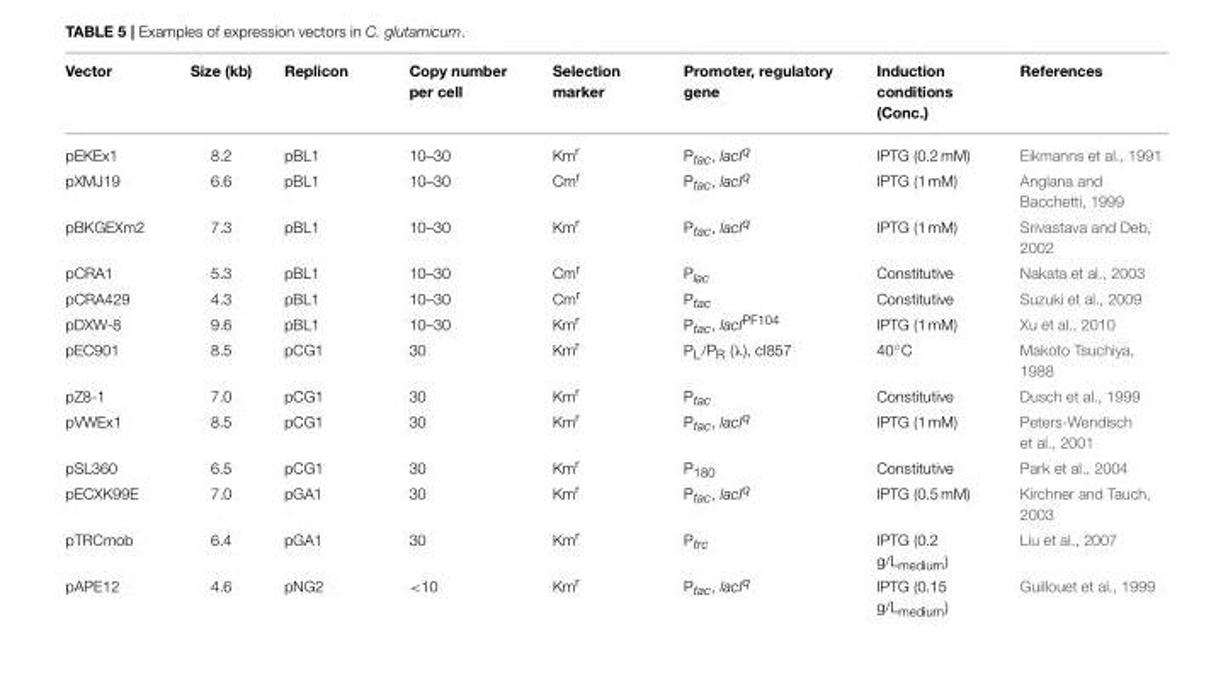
<table><thead><tr><td>Vector</td><td>Size (kb)</td><td>Replicon</td><td>Copy number per cell</td><td>Selection marker</td><td>Promoter, regulatory gene</td><td>Induction conditions (Conc.)</td><td>References</td></tr></thead><tbody><tr><td>pEKEx1</td><td>8.2</td><td>pBL1</td><td>10–30</td><td>Km<sup>r</sup></td><td>Ptac, lacIq</td><td>IPTG (0.2 mM)</td><td>Eikmanns et al., 1991</td></tr><tr><td>pXMJ19</td><td>6.6</td><td>pBL1</td><td>10–30</td><td>Cm<sup>r</sup></td><td>Ptac, lacIq</td><td>IPTG (1 mM)</td><td>Anglana and Bacchetti, 1999</td></tr><tr><td>pBKGEXm2</td><td>7.3</td><td>pBL1</td><td>10–30</td><td>Km<sup>r</sup></td><td>Ptac, lacIq</td><td>IPTG (1 mM)</td><td>Srivastava and Deb, 2002</td></tr><tr><td>pCRA1</td><td>5.3</td><td>pBL1</td><td>10–30</td><td>Cm<sup>r</sup></td><td>Plac</td><td>Constitutive</td><td>Nakata et al., 2003</td></tr><tr><td>pCRA429</td><td>4.3</td><td>pBL1</td><td>10–30</td><td>Cm<sup>r</sup></td><td>Ptac</td><td>Constitutive</td><td>Suzuki et al., 2009</td></tr><tr><td>pDXW-8</td><td>9.6</td><td>pBL1</td><td>10–30</td><td>Km<sup>r</sup></td><td>Ptac, lacIPF104</td><td>IPTG (1 mM)</td><td>Xu et al., 2010</td></tr><tr><td>pEC901</td><td>8.5</td><td>pCG1</td><td>30</td><td>Km<sup>r</sup></td><td>P<sub>L</sub>/P<sub>R</sub> (λ), cI857</td><td>40◦C</td><td>Makoto Tsuchiya, 1988</td></tr><tr><td>pZ8-1</td><td>7.0</td><td>pCG1</td><td>30</td><td>Km<sup>r</sup></td><td>Ptac</td><td>Constitutive</td><td>Dusch et al., 1999</td></tr><tr><td>pVWEx1</td><td>8.5</td><td>pCG1</td><td>30</td><td>Km<sup>r</sup></td><td>Ptac, lacIq</td><td>IPTG (1 mM)</td><td>Peters-Wendisch et al., 2001</td></tr><tr><td>pSL360</td><td>6.5</td><td>pCG1</td><td>30</td><td>Km<sup>r</sup></td><td>P<sub>180</sub></td><td>Constitutive</td><td>Park et al., 2004</td></tr><tr><td>pECXK99E</td><td>7.0</td><td>pGA1</td><td>30</td><td>Km<sup>r</sup></td><td>Ptac, lacIq</td><td>IPTG (0.5 mM)</td><td>Kirchner and Tauch, 2003</td></tr><tr><td>pTRCmob</td><td>6.4</td><td>pGA1</td><td>30</td><td>Km<sup>r</sup></td><td>Ptrc</td><td>IPTG (0.2 g/L<sub>medium</sub>)</td><td>Liu et al., 2007</td></tr><tr><td>pAPE12</td><td>4.6</td><td>pNG2</td><td>&lt;10</td><td>Km<sup>r</sup></td><td>Ptac, lacIq</td><td>IPTG (0.15 g/L<sub>medium</sub>)</td><td>Guillouet et al., 1999</td></tr></tbody></table>